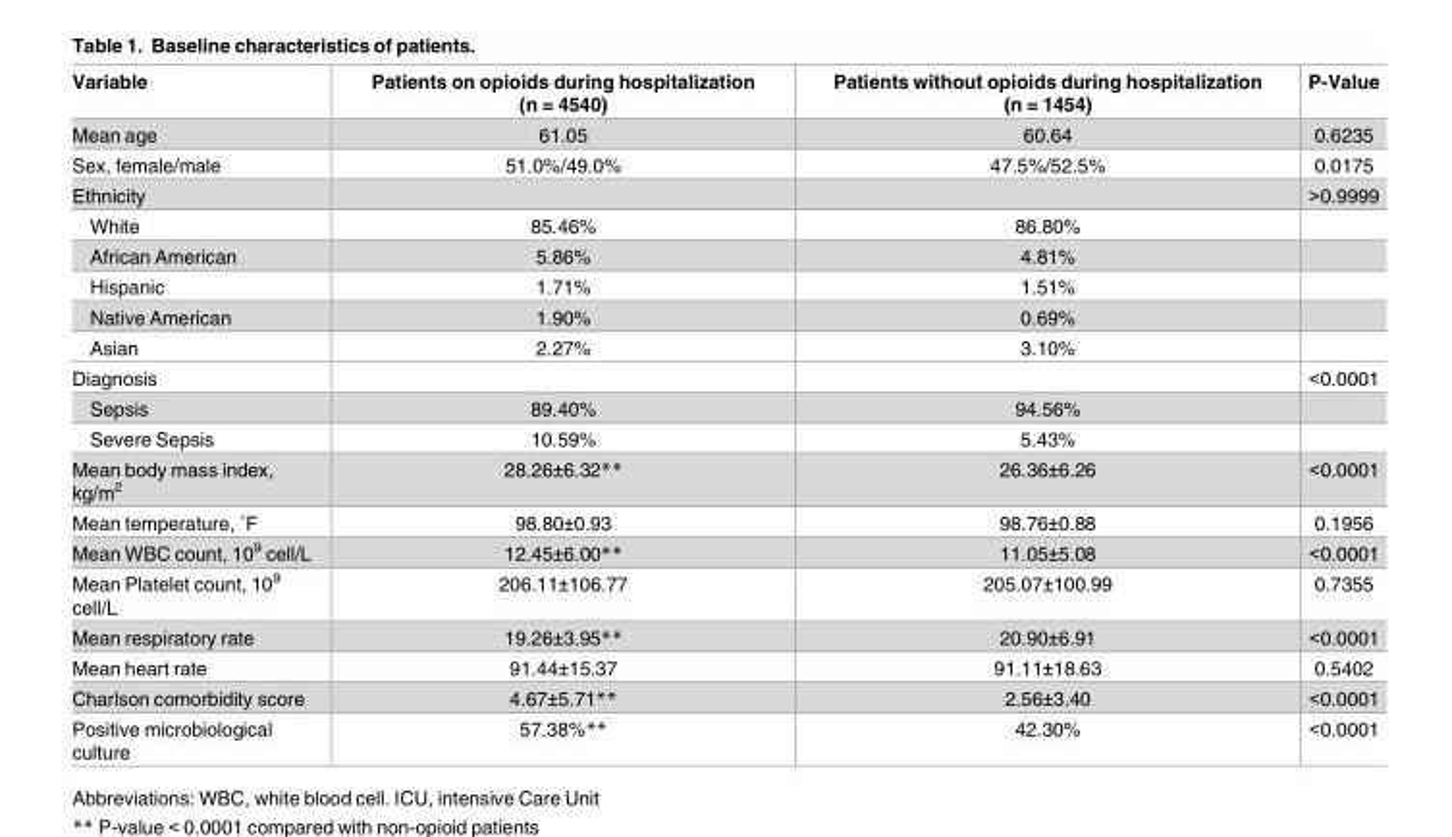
<table><thead><tr><td>Variable</td><td>Patients on opioids during hospitalization (n = 4540)</td><td>Patients without opioids during hospitalization (n = 1454)</td><td>P-Value</td></tr></thead><tbody><tr><td>Mean age</td><td>61.05</td><td>60.64</td><td>0.6235</td></tr><tr><td>Sex, female/male</td><td>51.0%/49.0%</td><td>47.5%/52.5%</td><td>0.0175</td></tr><tr><td>Ethnicity</td><td></td><td></td><td>&gt;0.9999</td></tr><tr><td>White</td><td>85.46%</td><td>86.80%</td><td></td></tr><tr><td>African American</td><td>5.86%</td><td>4.81%</td><td></td></tr><tr><td>Hispanic</td><td>1.71%</td><td>1.51%</td><td></td></tr><tr><td>Native American</td><td>1.90%</td><td>0.69%</td><td></td></tr><tr><td>Asian</td><td>2.27%</td><td>3.10%</td><td></td></tr><tr><td>Diagnosis</td><td></td><td></td><td>&lt;0.0001</td></tr><tr><td>Sepsis</td><td>89.40%</td><td>94.56%</td><td></td></tr><tr><td>Severe Sepsis</td><td>10.59%</td><td>5.43%</td><td></td></tr><tr><td>Mean body mass index, kg/m<sup>2</sup></td><td>28.26±6.32**</td><td>26.36±6.26</td><td>&lt;0.0001</td></tr><tr><td>Mean temperature, ˚F</td><td>98.80±0.93</td><td>98.76±0.88</td><td>0.1956</td></tr><tr><td>Mean WBC count, 10<sup>9</sup> cell/L</td><td>12.45±6.00**</td><td>11.05±5.08</td><td>&lt;0.0001</td></tr><tr><td>Mean Platelet count, 10<sup>9</sup> cell/L</td><td>206.11±106.77</td><td>205.07±100.99</td><td>0.7355</td></tr><tr><td>Mean respiratory rate</td><td>19.26±3.95**</td><td>20.90±6.91</td><td>&lt;0.0001</td></tr><tr><td>Mean heart rate</td><td>91.44±15.37</td><td>91.11±18.63</td><td>0.5402</td></tr><tr><td>Charlson comorbidity score</td><td>4.67±5.71**</td><td>2.56±3.40</td><td>&lt;0.0001</td></tr><tr><td>Positive microbiological culture</td><td>57.38%**</td><td>42.30%</td><td>&lt;0.0001</td></tr></tbody></table>